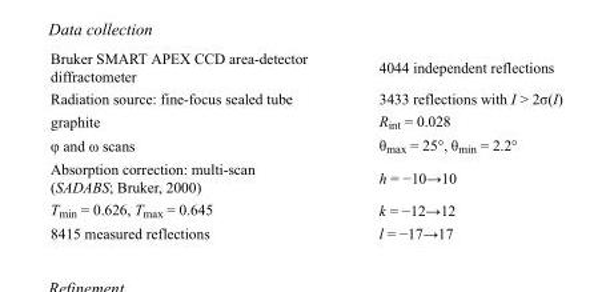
<table><tbody><tr><td>Bruker SMART APEX CCD area-detector diffractometer</td><td>4044 independent reflections</td></tr><tr><td>Radiation source: fine-focus sealed tube</td><td>3433 reflections with I &gt; 2σ(I)</td></tr><tr><td>graphite</td><td>R<sub>int</sub> = 0.028</td></tr><tr><td>φ and ω scans</td><td>θ<sub>max</sub> = 25°, θ<sub>min</sub> = 2.2°</td></tr><tr><td>Absorption correction: multi-scan (SADABS; Bruker, 2000)</td><td>h = −10→10</td></tr><tr><td>T<sub>min</sub> = 0.626, T<sub>max</sub> = 0.645</td><td>k = −12→12</td></tr><tr><td>8415 measured reflections</td><td>l = −17→17</td></tr></tbody></table>